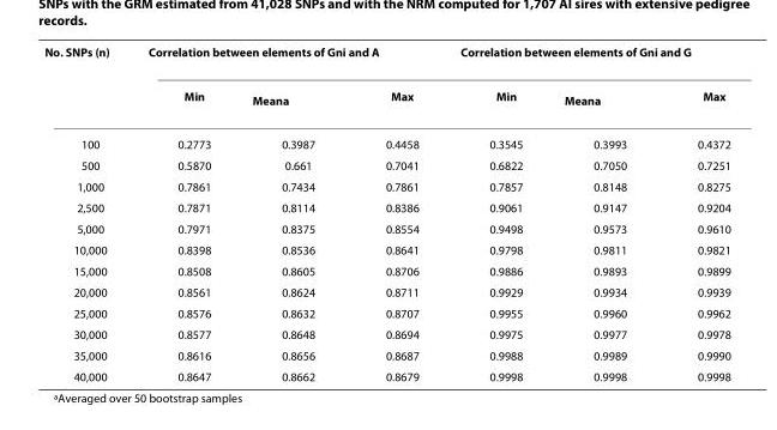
<table><thead><tr><td rowspan="2">No. SNPs (n)</td><td colspan="3">Correlation between elements of G<sub>ni</sub> and A</td><td colspan="3">Correlation between elements of G<sub>ni</sub> and G</td></tr><tr><td>Min</td><td>Mean<sup>a</sup></td><td>Max</td><td>Min</td><td>Mean<sup>a</sup></td><td>Max</td></tr></thead><tbody><tr><td>100</td><td>0.2773</td><td>0.3987</td><td>0.4458</td><td>0.3545</td><td>0.3993</td><td>0.4372</td></tr><tr><td>500</td><td>0.5870</td><td>0.661</td><td>0.7041</td><td>0.6822</td><td>0.7050</td><td>0.7251</td></tr><tr><td>1,000</td><td>0.7861</td><td>0.7434</td><td>0.7861</td><td>0.7857</td><td>0.8148</td><td>0.8275</td></tr><tr><td>2,500</td><td>0.7871</td><td>0.8114</td><td>0.8386</td><td>0.9061</td><td>0.9147</td><td>0.9204</td></tr><tr><td>5,000</td><td>0.7971</td><td>0.8375</td><td>0.8554</td><td>0.9498</td><td>0.9573</td><td>0.9610</td></tr><tr><td>10,000</td><td>0.8398</td><td>0.8536</td><td>0.8641</td><td>0.9798</td><td>0.9811</td><td>0.9821</td></tr><tr><td>15,000</td><td>0.8508</td><td>0.8605</td><td>0.8706</td><td>0.9886</td><td>0.9893</td><td>0.9899</td></tr><tr><td>20,000</td><td>0.8561</td><td>0.8624</td><td>0.8711</td><td>0.9929</td><td>0.9934</td><td>0.9939</td></tr><tr><td>25,000</td><td>0.8576</td><td>0.8632</td><td>0.8707</td><td>0.9955</td><td>0.9960</td><td>0.9962</td></tr><tr><td>30,000</td><td>0.8577</td><td>0.8648</td><td>0.8694</td><td>0.9975</td><td>0.9977</td><td>0.9978</td></tr><tr><td>35,000</td><td>0.8616</td><td>0.8656</td><td>0.8687</td><td>0.9988</td><td>0.9989</td><td>0.9990</td></tr><tr><td>40,000</td><td>0.8647</td><td>0.8662</td><td>0.8679</td><td>0.9998</td><td>0.9998</td><td>0.9998</td></tr></tbody></table>